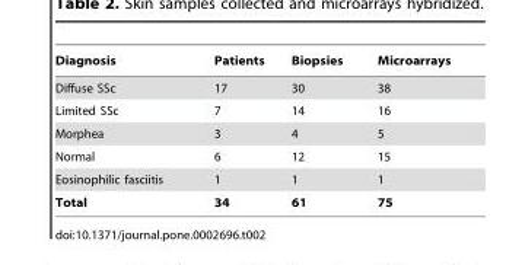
<table><thead><tr><td>Diagnosis</td><td>Patients</td><td>Biopsies</td><td>Microarrays</td></tr></thead><tbody><tr><td>Diffuse SSc</td><td>17</td><td>30</td><td>38</td></tr><tr><td>Limited SSc</td><td>7</td><td>14</td><td>16</td></tr><tr><td>Morphea</td><td>3</td><td>4</td><td>5</td></tr><tr><td>Normal</td><td>6</td><td>12</td><td>15</td></tr><tr><td>Eosinophilic fasciitis</td><td>1</td><td>1</td><td>1</td></tr><tr><td>Total</td><td>34</td><td>61</td><td>75</td></tr></tbody></table>